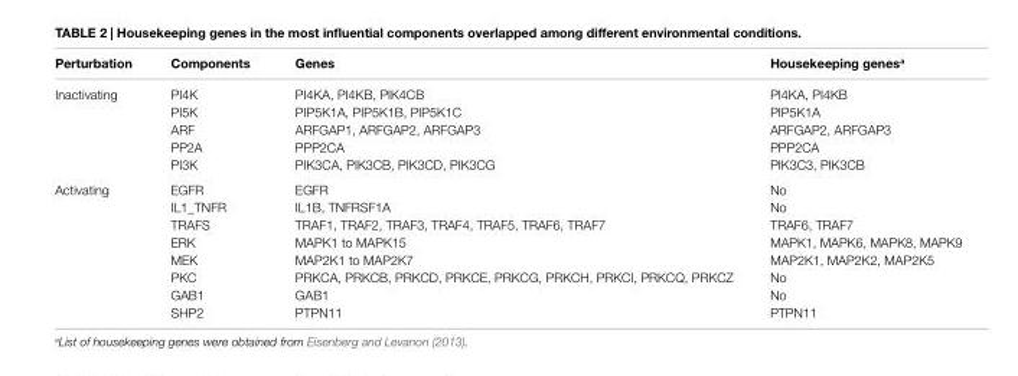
<table><thead><tr><td>Perturbation</td><td>components</td><td>genes</td><td>housekeeping genes<sup>a</sup></td></tr></thead><tbody><tr><td rowspan="5">Inactivating</td><td>PI4K</td><td>PI4KA, PI4KB, PIK4CB</td><td>PI4KA, PI4KB</td></tr><tr><td>PI5K</td><td>PIP5K1A, PIP5K1B, PIP5K1C</td><td>PIP5K1A</td></tr><tr><td>ARF</td><td>ARFGAP1, ARFGAP2, ARFGAP3</td><td>ARFGAP2, ARFGAP3</td></tr><tr><td>PP2A</td><td>PPP2CA</td><td>PPP2CA</td></tr><tr><td>PI3K</td><td>PIK3CA, PIK3CB, PIK3CD, PIK3CG</td><td>PIK3C3, PIK3CB</td></tr><tr><td rowspan="8">Activating</td><td>EGFR</td><td>EGFR</td><td>No</td></tr><tr><td>IL1_TNFR</td><td>IL1B, TNFRSF1A</td><td>No</td></tr><tr><td>TRAFS</td><td>TRAF1, TRAF2, TRAF3, TRAF4, TRAF5, TRAF6, TRAF7</td><td>TRAF6, TRAF7</td></tr><tr><td>ERK</td><td>MAPK1 to MAPK15</td><td>MAPK1, MAPK6, MAPK8, MAPK9</td></tr><tr><td>MEK</td><td>MAP2K1 to MAP2K7</td><td>MAP2K1, MAP2K2, MAP2K5</td></tr><tr><td>PKC</td><td>PRKCA, PRKCB, PRKCD, PRKCE, PRKCG, PRKCH, PRKCI, PRKCQ, PRKCZ</td><td>No</td></tr><tr><td>GAB1</td><td>GAB1</td><td>No</td></tr><tr><td>SHP2</td><td>PTPN11</td><td>PTPN11</td></tr></tbody></table>